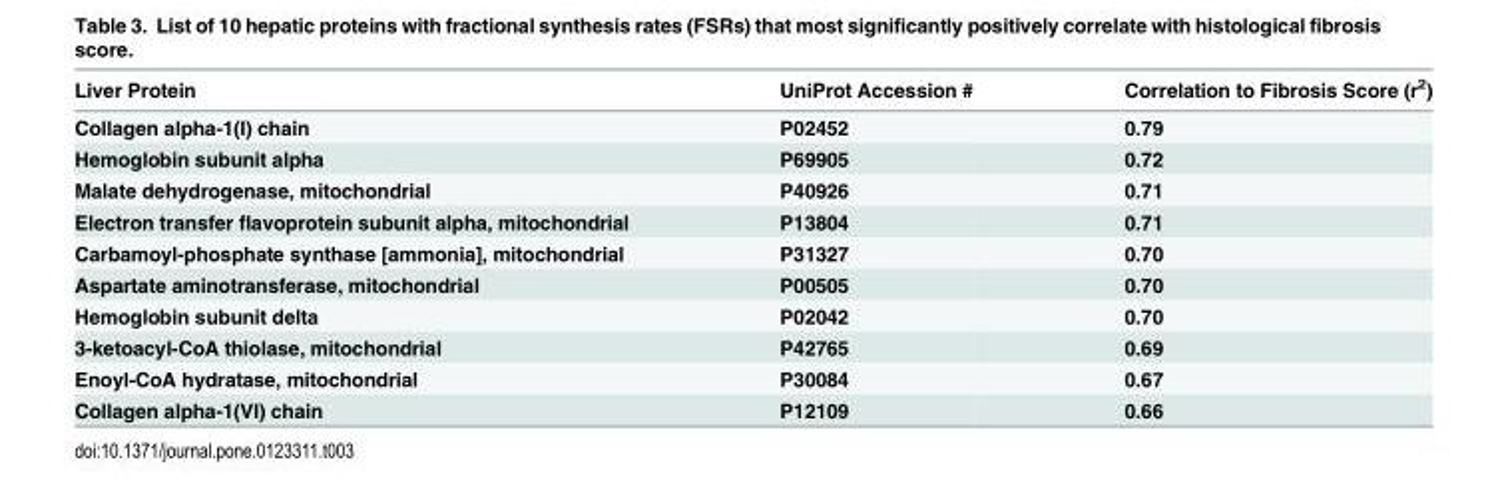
<table><thead><tr><td>Liver Protein</td><td>UniProt Accession #</td><td>Correlation to Fibrosis Score (r<sup>2</sup>)</td></tr></thead><tbody><tr><td>Collagen alpha-1(I) chain</td><td>P02452</td><td>0.79</td></tr><tr><td>Hemoglobin subunit alpha</td><td>P69905</td><td>0.72</td></tr><tr><td>Malate dehydrogenase, mitochondrial</td><td>P40926</td><td>0.71</td></tr><tr><td>Electron transfer flavoprotein subunit alpha, mitochondrial</td><td>P13804</td><td>0.71</td></tr><tr><td>Carbamoyl-phosphate synthase [ammonia], mitochondrial</td><td>P31327</td><td>0.70</td></tr><tr><td>Aspartate aminotransferase, mitochondrial</td><td>P00505</td><td>0.70</td></tr><tr><td>Hemoglobin subunit delta</td><td>P02042</td><td>0.70</td></tr><tr><td>3-ketoacyl-CoA thiolase, mitochondrial</td><td>P42765</td><td>0.69</td></tr><tr><td>Enoyl-CoA hydratase, mitochondrial</td><td>P30084</td><td>0.67</td></tr><tr><td>Collagen alpha-1(VI) chain</td><td>P12109</td><td>0.66</td></tr></tbody></table>